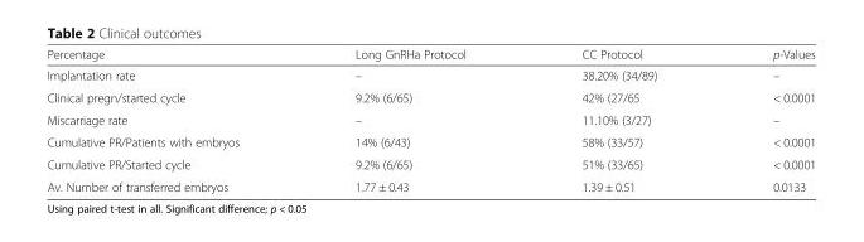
<table><thead><tr><td>Percentage</td><td>Long GnRHa Protocol</td><td>CC Protocol</td><td>p-Values</td></tr></thead><tbody><tr><td>Implantation rate</td><td>–</td><td>38.20% (34/89)</td><td>–</td></tr><tr><td>Clinical pregn/started cycle</td><td>9.2% (6/65)</td><td>42% (27/65</td><td>&lt; 0.0001</td></tr><tr><td>Miscarriage rate</td><td>–</td><td>11.10% (3/27)</td><td>–</td></tr><tr><td>Cumulative PR/Patients with embryos</td><td>14% (6/43)</td><td>58% (33/57)</td><td>&lt; 0.0001</td></tr><tr><td>Cumulative PR/Started cycle</td><td>9.2% (6/65)</td><td>51% (33/65)</td><td>&lt; 0.0001</td></tr><tr><td>Av. Number of transferred embryos</td><td>1.77 ± 0.43</td><td>1.39 ± 0.51</td><td>0.0133</td></tr></tbody></table>